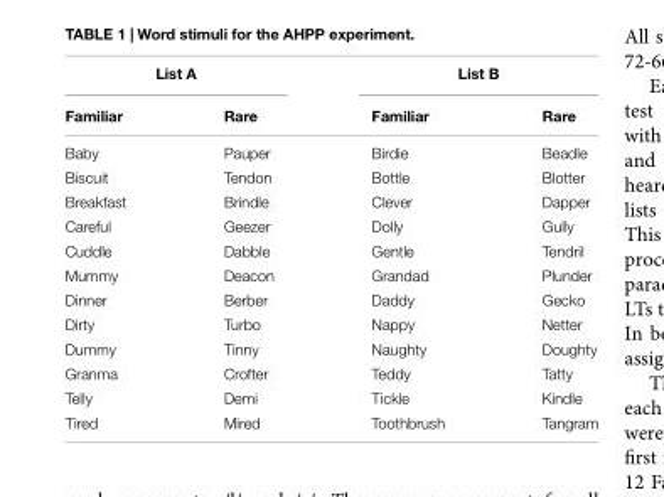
<table><thead><tr><td colspan="2">List A</td><td colspan="2">List B</td></tr><tr><td>Familiar</td><td>Rare</td><td>Familiar</td><td>Rare</td></tr></thead><tbody><tr><td>Baby</td><td>Pauper</td><td>Birdie</td><td>Beadle</td></tr><tr><td>Biscuit</td><td>Tendon</td><td>Bottle</td><td>Blotter</td></tr><tr><td>Breakfast</td><td>Brindle</td><td>Clever</td><td>Dapper</td></tr><tr><td>Careful</td><td>Geezer</td><td>Dolly</td><td>Gully</td></tr><tr><td>Cuddle</td><td>Dabble</td><td>Gentle</td><td>Tendril</td></tr><tr><td>Mummy</td><td>Deacon</td><td>Grandad</td><td>Plunder</td></tr><tr><td>Dinner</td><td>Berber</td><td>Daddy</td><td>Gecko</td></tr><tr><td>Dirty</td><td>Turbo</td><td>Nappy</td><td>Netter</td></tr><tr><td>Dummy</td><td>Tinny</td><td>Naughty</td><td>Doughty</td></tr><tr><td>Granma</td><td>Crofter</td><td>Teddy</td><td>Tatty</td></tr><tr><td>Telly</td><td>Demi</td><td>Tickle</td><td>Kindle</td></tr><tr><td>Tired</td><td>Mired</td><td>Toothbrush</td><td>Tangram</td></tr></tbody></table>